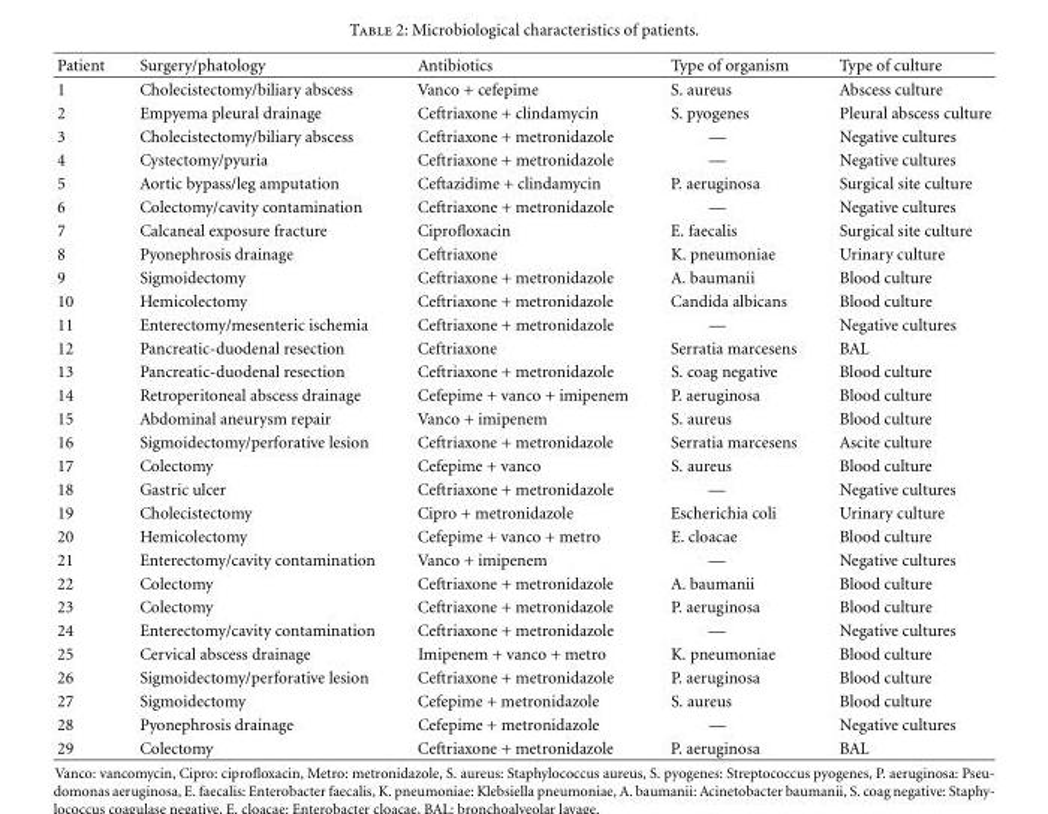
<table><thead><tr><td>Patient</td><td>Surgery/phatology</td><td>Antibiotics</td><td>Type of organism</td><td>Type of culture</td></tr></thead><tbody><tr><td>1</td><td>Cholecistectomy/biliary abscess</td><td>Vanco + cefepime</td><td>S. aureus</td><td>Abscess culture</td></tr><tr><td>2</td><td>Empyema pleural drainage</td><td>Ceftriaxone + clindamycin</td><td>S. pyogenes</td><td>Pleural abscess culture</td></tr><tr><td>3</td><td>Cholecistectomy/biliary abscess</td><td>Ceftriaxone + metronidazole</td><td>—</td><td>Negative cultures</td></tr><tr><td>4</td><td>Cystectomy/pyuria</td><td>Ceftriaxone + metronidazole</td><td>—</td><td>Negative cultures</td></tr><tr><td>5</td><td>Aortic bypass/leg amputation</td><td>Ceftazidime + clindamycin</td><td>P. aeruginosa</td><td>Surgical site culture</td></tr><tr><td>6</td><td>Colectomy/cavity contamination</td><td>Ceftriaxone + metronidazole</td><td>—</td><td>Negative cultures</td></tr><tr><td>7</td><td>Calcaneal exposure fracture</td><td>Ciprofloxacin</td><td>E. faecalis</td><td>Surgical site culture</td></tr><tr><td>8</td><td>Pyonephrosis drainage</td><td>Ceftriaxone</td><td>K. pneumoniae</td><td>Urinary culture</td></tr><tr><td>9</td><td>Sigmoidectomy</td><td>Ceftriaxone + metronidazole</td><td>A. baumanii</td><td>Blood culture</td></tr><tr><td>10</td><td>Hemicolectomy</td><td>Ceftriaxone + metronidazole</td><td>Candida albicans</td><td>Blood culture</td></tr><tr><td>11</td><td>Enterectomy/mesenteric ischemia</td><td>Ceftriaxone + metronidazole</td><td>—</td><td>Negative cultures</td></tr><tr><td>12</td><td>Pancreatic-duodenal resection</td><td>Ceftriaxone</td><td>Serratia marcesens</td><td>BAL</td></tr><tr><td>13</td><td>Pancreatic-duodenal resection</td><td>Ceftriaxone + metronidazole</td><td>S. coag negative</td><td>Blood culture</td></tr><tr><td>14</td><td>Retroperitoneal abscess drainage</td><td>Cefepime + vanco + imipenem</td><td>P. aeruginosa</td><td>Blood culture</td></tr><tr><td>15</td><td>Abdominal aneurysm repair</td><td>Vanco + imipenem</td><td>S. aureus</td><td>Blood culture</td></tr><tr><td>16</td><td>Sigmoidectomy/perforative lesion</td><td>Ceftriaxone + metronidazole</td><td>Serratia marcesens</td><td>Ascite culture</td></tr><tr><td>17</td><td>Colectomy</td><td>Cefepime + vanco</td><td>S. aureus</td><td>Blood culture</td></tr><tr><td>18</td><td>Gastric ulcer</td><td>Ceftriaxone + metronidazole</td><td>—</td><td>Negative cultures</td></tr><tr><td>19</td><td>Cholecistectomy</td><td>Cipro + metronidazole</td><td>Escherichia coli</td><td>Urinary culture</td></tr><tr><td>20</td><td>Hemicolectomy</td><td>Cefepime + vanco + metro</td><td>E. cloacae</td><td>Blood culture</td></tr><tr><td>21</td><td>Enterectomy/cavity contamination</td><td>Vanco + imipenem</td><td>—</td><td>Negative cultures</td></tr><tr><td>22</td><td>Colectomy</td><td>Ceftriaxone + metronidazole</td><td>A. baumanii</td><td>Blood culture</td></tr><tr><td>23</td><td>Colectomy</td><td>Ceftriaxone + metronidazole</td><td>P. aeruginosa</td><td>Blood culture</td></tr><tr><td>24</td><td>Enterectomy/cavity contamination</td><td>Ceftriaxone + metronidazole</td><td>—</td><td>Negative cultures</td></tr><tr><td>25</td><td>Cervical abscess drainage</td><td>Imipenem + vanco + metro</td><td>K. pneumoniae</td><td>Blood culture</td></tr><tr><td>26</td><td>Sigmoidectomy/perforative lesion</td><td>Ceftriaxone + metronidazole</td><td>P. aeruginosa</td><td>Blood culture</td></tr><tr><td>27</td><td>Sigmoidectomy</td><td>Cefepime + metronidazole</td><td>S. aureus</td><td>Blood culture</td></tr><tr><td>28</td><td>Pyonephrosis drainage</td><td>Cefepime + metronidazole</td><td>—</td><td>Negative cultures</td></tr><tr><td>29</td><td>Colectomy</td><td>Ceftriaxone + metronidazole</td><td>P. aeruginosa</td><td>BAL</td></tr></tbody></table>